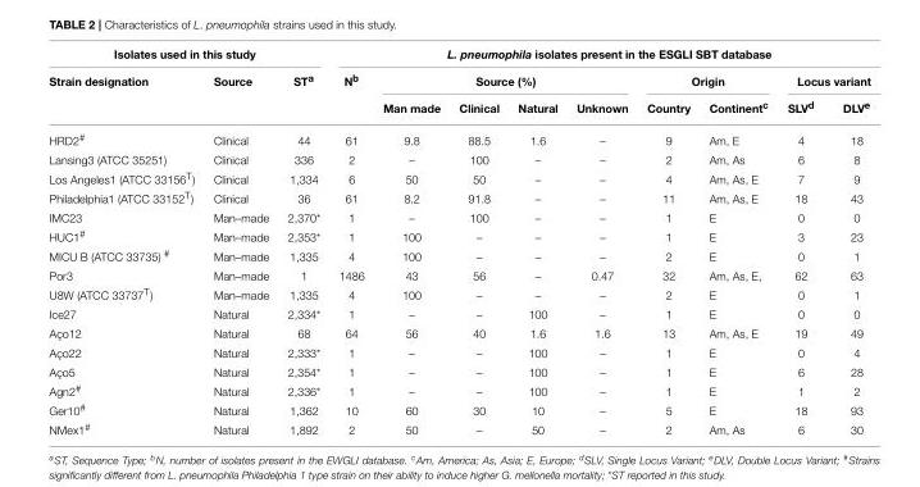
<table><thead><tr><td colspan="3">Isolates used in this study</td><td colspan="9">L. pneumophila isolates present in the ESGLI SBT database</td></tr><tr><td rowspan="2">Strain designation</td><td rowspan="2">Source</td><td rowspan="2">ST<sup>a</sup></td><td rowspan="2">N<sup>b</sup></td><td colspan="4">Source (%)</td><td colspan="2">Origin</td><td colspan="2">Locus variant</td></tr><tr><td>Man made</td><td>Clinical</td><td>Natural</td><td>Unknown</td><td>Country</td><td>Continent<sup>c</sup></td><td>SLV<sup>d</sup></td><td>DLV<sup>e</sup></td></tr></thead><tbody><tr><td>HRD2<sup>#</sup></td><td>Clinical</td><td>44</td><td>61</td><td>9.8</td><td>88.5</td><td>1.6</td><td>–</td><td>9</td><td>Am, E</td><td>4</td><td>18</td></tr><tr><td>Lansing3 (ATCC 35251)</td><td>Clinical</td><td>336</td><td>2</td><td>–</td><td>100</td><td>–</td><td>–</td><td>2</td><td>Am, As</td><td>6</td><td>8</td></tr><tr><td>Los Angeles1 (ATCC 33156<sup>T</sup>)</td><td>Clinical</td><td>1,334</td><td>6</td><td>50</td><td>50</td><td>–</td><td>–</td><td>4</td><td>Am, As, E</td><td>7</td><td>9</td></tr><tr><td>Philadelphia1 (ATCC 33152<sup>T</sup>)</td><td>Clinical</td><td>36</td><td>61</td><td>8.2</td><td>91.8</td><td>–</td><td>–</td><td>11</td><td>Am, As, E</td><td>18</td><td>43</td></tr><tr><td>IMC23</td><td>Man–made</td><td>2,370*</td><td>1</td><td>–</td><td>100</td><td>–</td><td>–</td><td>1</td><td>E</td><td>0</td><td>0</td></tr><tr><td>HUC1<sup>#</sup></td><td>Man–made</td><td>2,353*</td><td>1</td><td>100</td><td>–</td><td>–</td><td>–</td><td>1</td><td>E</td><td>3</td><td>23</td></tr><tr><td>MICU B (ATCC 33735) <sup>#</sup></td><td>Man–made</td><td>1,335</td><td>4</td><td>100</td><td>–</td><td>–</td><td>–</td><td>2</td><td>E</td><td>0</td><td>1</td></tr><tr><td>Por3</td><td>Man–made</td><td>1</td><td>1486</td><td>43</td><td>56</td><td>–</td><td>0.47</td><td>32</td><td>Am, As, E,</td><td>62</td><td>63</td></tr><tr><td>U8W (ATCC 33737<sup>T</sup>)</td><td>Man–made</td><td>1,335</td><td>4</td><td>100</td><td>–</td><td>–</td><td>–</td><td>2</td><td>E</td><td>0</td><td>1</td></tr><tr><td>Ice27</td><td>Natural</td><td>2,334*</td><td>1</td><td>–</td><td>–</td><td>100</td><td>–</td><td>1</td><td>E</td><td>0</td><td>0</td></tr><tr><td>Aço12</td><td>Natural</td><td>68</td><td>64</td><td>56</td><td>40</td><td>1.6</td><td>1.6</td><td>13</td><td>Am, As, E</td><td>19</td><td>49</td></tr><tr><td>Aço22</td><td>Natural</td><td>2,333*</td><td>1</td><td>–</td><td>–</td><td>100</td><td>–</td><td>1</td><td>E</td><td>0</td><td>4</td></tr><tr><td>Aço5</td><td>Natural</td><td>2,354*</td><td>1</td><td>–</td><td>–</td><td>100</td><td>–</td><td>1</td><td>E</td><td>6</td><td>28</td></tr><tr><td>Agn2<sup>#</sup></td><td>Natural</td><td>2,336*</td><td>1</td><td>–</td><td>–</td><td>100</td><td>–</td><td>1</td><td>E</td><td>1</td><td>2</td></tr><tr><td>Ger10<sup>#</sup></td><td>Natural</td><td>1,362</td><td>10</td><td>60</td><td>30</td><td>10</td><td>–</td><td>5</td><td>E</td><td>18</td><td>93</td></tr><tr><td>NMex1<sup>#</sup></td><td>Natural</td><td>1,892</td><td>2</td><td>50</td><td>–</td><td>50</td><td>–</td><td>2</td><td>Am, As</td><td>6</td><td>30</td></tr></tbody></table>